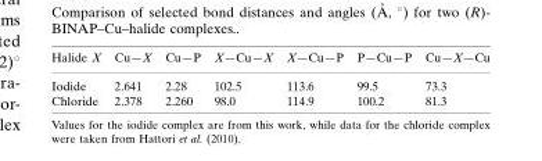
<table><tbody><tr><td>Halide X</td><td>Cu—X</td><td>Cu—P</td><td>X—Cu—X</td><td>X—Cu—P</td><td>P—Cu—P</td><td>Cu—X—Cu</td></tr><tr><td>Iodide</td><td>2.641</td><td>2.28</td><td>102.5</td><td>113.6</td><td>99.5</td><td>73.3</td></tr><tr><td>Chloride</td><td>2.378</td><td>2.260</td><td>98.0</td><td>114.9</td><td>100.2</td><td>81.3</td></tr></tbody></table>